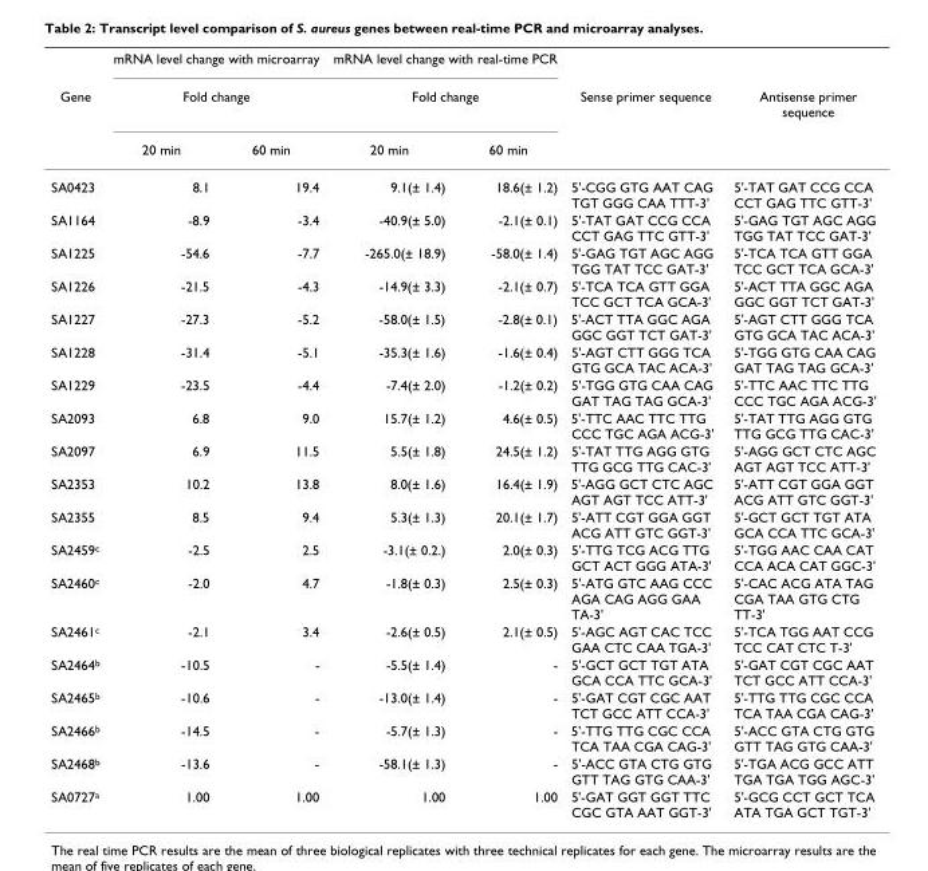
<table><thead><tr><td rowspan="3">Gene</td><td rowspan="2" colspan="2">mRNA level change with microarray Fold change</td><td rowspan="2" colspan="2">mRNA level change with real-time PCR Fold change</td><td rowspan="3">Sense primer sequence</td><td rowspan="3">Antisense primer sequence</td></tr><tr></tr><tr><td>20 min</td><td>60 min</td><td>20 min</td><td>60 min</td></tr></thead><tbody><tr><td>SA0423</td><td>8.1</td><td>19.4</td><td>9.1(± 1.4)</td><td>18.6(± 1.2)</td><td>5&#x27;-CGG GTG AAT CAG TGT GGG CAA TTT-3&#x27;</td><td>5&#x27;-TAT GAT CCG CCA CCT GAG TTC GTT-3&#x27;</td></tr><tr><td>SA1164</td><td>-8.9</td><td>-3.4</td><td>-40.9(± 5.0)</td><td>-2.1(± 0.1)</td><td>5&#x27;-TAT GAT CCG CCA CCT GAG TTC GTT-3&#x27;</td><td>5&#x27;-GAG TGT AGC AGG TGG TAT TCC GAT-3&#x27;</td></tr><tr><td>SA1225</td><td>-54.6</td><td>-7.7</td><td>-265.0(± 18.9)</td><td>-58.0(± 1.4)</td><td>5&#x27;-GAG TGT AGC AGG TGG TAT TCC GAT-3&#x27;</td><td>5&#x27;-TCA TCA GTT GGA TCC GCT TCA GCA-3&#x27;</td></tr><tr><td>SA1226</td><td>-21.5</td><td>-4.3</td><td>-14.9(± 3.3)</td><td>-2.1(± 0.7)</td><td>5&#x27;-TCA TCA GTT GGA TCC GCT TCA GCA-3&#x27;</td><td>5&#x27;-ACT TTA GGC AGA GGC GGT TCT GAT-3&#x27;</td></tr><tr><td>SA1227</td><td>-27.3</td><td>-5.2</td><td>-58.0(± 1.5)</td><td>-2.8(± 0.1)</td><td>5&#x27;-ACT TTA GGC AGA GGC GGT TCT GAT-3&#x27;</td><td>5&#x27;-AGT CTT GGG TCA GTG GCA TAC ACA-3&#x27;</td></tr><tr><td>SA1228</td><td>-31.4</td><td>-5.1</td><td>-35.3(± 1.6)</td><td>-1.6(± 0.4)</td><td>5&#x27;-AGT CTT GGG TCA GTG GCA TAC ACA-3&#x27;</td><td>5&#x27;-TGG GTG CAA CAG GAT TAG TAG GCA-3&#x27;</td></tr><tr><td>SA1229</td><td>-23.5</td><td>-4.4</td><td>-7.4(± 2.0)</td><td>-1.2(± 0.2)</td><td>5&#x27;-TGG GTG CAA CAG GAT TAG TAG GCA-3&#x27;</td><td>5&#x27;-TTC AAC TTC TTG CCC TGC AGA ACG-3&#x27;</td></tr><tr><td>SA2093</td><td>6.8</td><td>9.0</td><td>15.7(± 1.2)</td><td>4.6(± 0.5)</td><td>5&#x27;-TTC AAC TTC TTG CCC TGC AGA ACG-3&#x27;</td><td>5&#x27;-TAT TTG AGG GTG TTG GCG TTG CAC-3&#x27;</td></tr><tr><td>SA2097</td><td>6.9</td><td>11.5</td><td>5.5(± 1.8)</td><td>24.5(± 1.2)</td><td>5&#x27;-TAT TTG AGG GTG TTG GCG TTG CAC-3&#x27;</td><td>5&#x27;-AGG GCT CTC AGC AGT AGT TCC ATT-3&#x27;</td></tr><tr><td>SA2353</td><td>10.2</td><td>13.8</td><td>8.0(± 1.6)</td><td>16.4(± 1.9)</td><td>5&#x27;-AGG GCT CTC AGC AGT AGT TCC ATT-3&#x27;</td><td>5&#x27;-ATT CGT GGA GGT ACG ATT GTC GGT-3&#x27;</td></tr><tr><td>SA2355</td><td>8.5</td><td>9.4</td><td>5.3(± 1.3)</td><td>20.1(± 1.7)</td><td>5&#x27;-ATT CGT GGA GGT ACG ATT GTC GGT-3&#x27;</td><td>5&#x27;-GCT GCT TGT ATA GCA CCA TTC GCA-3&#x27;</td></tr><tr><td>SA2459<sup>c</sup></td><td>-2.5</td><td>2.5</td><td>-3.1(± 0.2.)</td><td>2.0(± 0.3)</td><td>5&#x27;-TTG TCG ACG TTG GCT ACT GGG ATA-3&#x27;</td><td>5&#x27;-TGG AAC CAA CAT CCA ACA CAT GGC-3&#x27;</td></tr><tr><td>SA2460<sup>c</sup></td><td>-2.0</td><td>4.7</td><td>-1.8(± 0.3)</td><td>2.5(± 0.3)</td><td>5&#x27;-ATG GTC AAG CCC AGA CAG AGG GAA TA-3&#x27;</td><td>5&#x27;-CAC ACG ATA TAG CGA TAA GTG CTG TT-3&#x27;</td></tr><tr><td>SA2461<sup>c</sup></td><td>-2.1</td><td>3.4</td><td>-2.6(± 0.5)</td><td>2.1(± 0.5)</td><td>5&#x27;-AGC AGT CAC TCC GAA CTC CAA TGA-3&#x27;</td><td>5&#x27;-TCA TGG AAT CCG TCC CAT CTC T-3&#x27;</td></tr><tr><td>SA2464<sup>b</sup></td><td>-10.5</td><td>-</td><td>-5.5(± 1.4)</td><td>-</td><td>5&#x27;-GCT GCT TGT ATA GCA CCA TTC GCA-3&#x27;</td><td>5&#x27;-GAT CGT CGC AAT TCT GCC ATT CCA-3&#x27;</td></tr><tr><td>SA2465<sup>b</sup></td><td>-10.6</td><td>-</td><td>-13.0(± 1.4)</td><td>-</td><td>5&#x27;-GAT CGT CGC AAT TCT GCC ATT CCA-3&#x27;</td><td>5&#x27;-TTG TTG CGC CCA TCA TAA CGA CAG-3&#x27;</td></tr><tr><td>SA2466<sup>b</sup></td><td>-14.5</td><td>-</td><td>-5.7(± 1.3)</td><td>-</td><td>5&#x27;-TTG TTG CGC CCA TCA TAA CGA CAG-3&#x27;</td><td>5&#x27;-ACC GTA CTG GTG GTT TAG GTG CAA-3&#x27;</td></tr><tr><td>SA2468<sup>b</sup></td><td>-13.6</td><td>-</td><td>-58.1(± 1.3)</td><td>-</td><td>5&#x27;-ACC GTA CTG GTG GTT TAG GTG CAA-3&#x27;</td><td>5&#x27;-TGA ACG GCC ATT TGA TGA TGG AGC-3&#x27;</td></tr><tr><td>SA0727<sup>a</sup></td><td>1.00</td><td>1.00</td><td>1.00</td><td>1.00</td><td>5&#x27;-GAT GGT GGT TTC CGC GTA AAT GGT-3&#x27;</td><td>5&#x27;-GCG CCT GCT TCA ATA TGA GCT TGT-3&#x27;</td></tr></tbody></table>